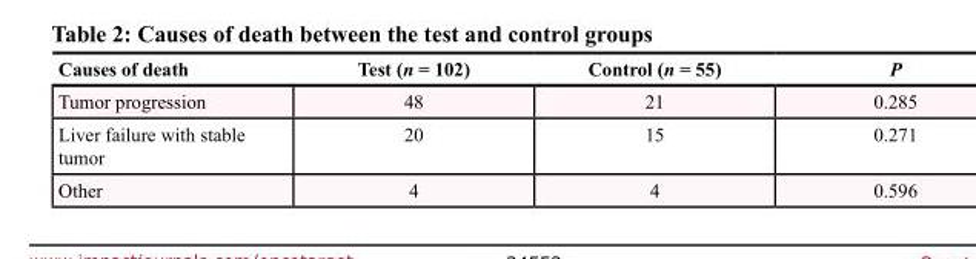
<table><thead><tr><td>Causes of death</td><td>Test (n = 102)</td><td>Control (n = 55)</td><td>P</td></tr></thead><tbody><tr><td>Tumor progression</td><td>48</td><td>21</td><td>0.285</td></tr><tr><td>Liver failure with stable tumor</td><td>20</td><td>15</td><td>0.271</td></tr><tr><td>Other</td><td>4</td><td>4</td><td>0.596</td></tr></tbody></table>